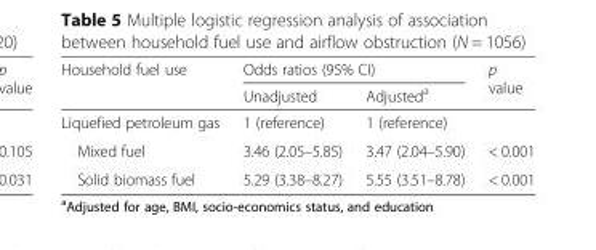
<table><thead><tr><td rowspan="2">Household fuel use</td><td colspan="2">Odds ratios (95% CI)</td><td rowspan="2">p value</td></tr><tr><td>Unadjusted</td><td>Adjusted<sup>a</sup></td></tr></thead><tbody><tr><td>Liquefied petroleum gas</td><td>1 (reference)</td><td>1 (reference)</td><td></td></tr><tr><td>Mixed fuel</td><td>3.46 (2.05–5.85)</td><td>3.47 (2.04–5.90)</td><td>&lt; 0.001</td></tr><tr><td>Solid biomass fuel</td><td>5.29 (3.38–8.27)</td><td>5.55 (3.51–8.78)</td><td>&lt; 0.001</td></tr></tbody></table>